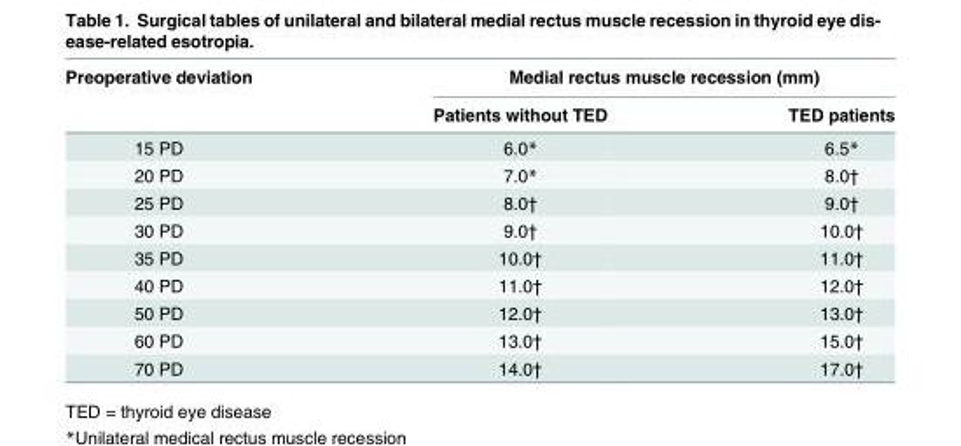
<table><thead><tr><td rowspan="2">Preoperative deviation</td><td colspan="2">Medial rectus muscle recession (mm)</td></tr><tr><td>Patients without TED</td><td>TED patients</td></tr></thead><tbody><tr><td>15 PD</td><td>6.0*</td><td>6.5*</td></tr><tr><td>20 PD</td><td>7.0*</td><td>8.0†</td></tr><tr><td>25 PD</td><td>8.0†</td><td>9.0†</td></tr><tr><td>30 PD</td><td>9.0†</td><td>10.0†</td></tr><tr><td>35 PD</td><td>10.0†</td><td>11.0†</td></tr><tr><td>40 PD</td><td>11.0†</td><td>12.0†</td></tr><tr><td>50 PD</td><td>12.0†</td><td>13.0†</td></tr><tr><td>60 PD</td><td>13.0†</td><td>15.0†</td></tr><tr><td>70 PD</td><td>14.0†</td><td>17.0†</td></tr></tbody></table>